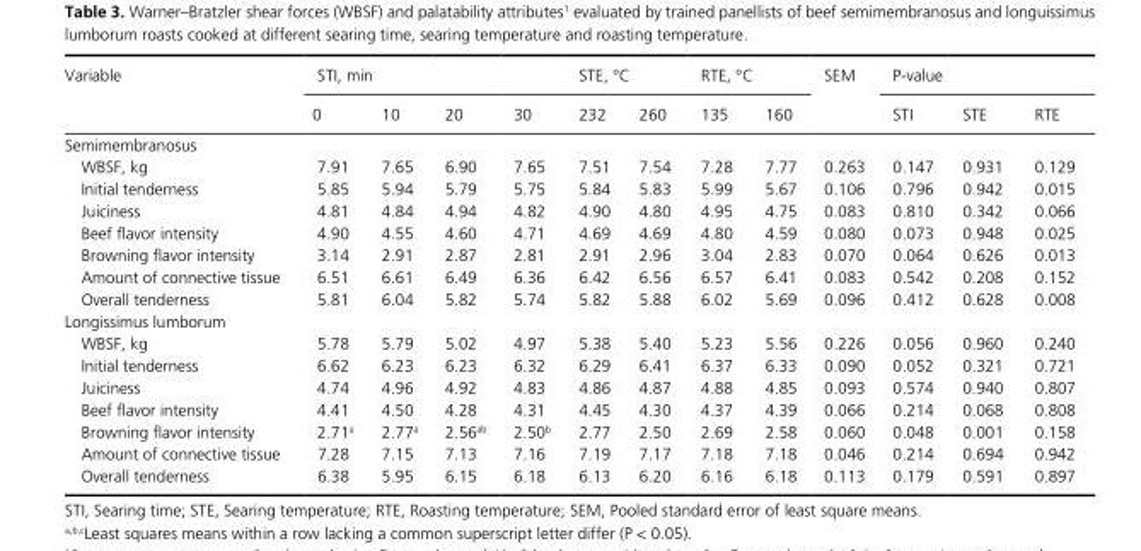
<table><thead><tr><td rowspan="2">Variable</td><td colspan="4">STI, min</td><td colspan="2">STE, °C</td><td colspan="2">RTE, °C</td><td rowspan="2">SEM</td><td colspan="3">P- value</td></tr><tr><td>0</td><td>10</td><td>20</td><td>30</td><td>232</td><td>260</td><td>135</td><td>160</td><td>STI</td><td>STE</td><td>RTE</td></tr></thead><tbody><tr><td colspan="13">Semimembranosus</td></tr><tr><td>WBSF, kg</td><td>7.91</td><td>7.65</td><td>6.90</td><td>7.65</td><td>7.51</td><td>7.54</td><td>7.28</td><td>7.77</td><td>0.263</td><td>0.147</td><td>0.931</td><td>0.129</td></tr><tr><td>Initial tenderness</td><td>5.85</td><td>5.94</td><td>5.79</td><td>5.75</td><td>5.84</td><td>5.83</td><td>5.99</td><td>5.67</td><td>0.106</td><td>0.796</td><td>0.942</td><td>0.015</td></tr><tr><td>Juiciness</td><td>4.81</td><td>4.84</td><td>4.94</td><td>4.82</td><td>4.90</td><td>4.80</td><td>4.95</td><td>4.75</td><td>0.083</td><td>0.810</td><td>0.342</td><td>0.066</td></tr><tr><td>Beef flavor intensity</td><td>4.90</td><td>4.55</td><td>4.60</td><td>4.71</td><td>4.69</td><td>4.69</td><td>4.80</td><td>4.59</td><td>0.080</td><td>0.073</td><td>0.948</td><td>0.025</td></tr><tr><td>Browning flavor intensity</td><td>3.14</td><td>2.91</td><td>2.87</td><td>2.81</td><td>2.91</td><td>2.96</td><td>3.04</td><td>2.83</td><td>0.070</td><td>0.064</td><td>0.626</td><td>0.013</td></tr><tr><td>Amount of connective tissue</td><td>6.51</td><td>6.61</td><td>6.49</td><td>6.36</td><td>6.42</td><td>6.56</td><td>6.57</td><td>6.41</td><td>0.083</td><td>0.542</td><td>0.208</td><td>0.152</td></tr><tr><td>Overall tenderness</td><td>5.81</td><td>6.04</td><td>5.82</td><td>5.74</td><td>5.82</td><td>5.88</td><td>6.02</td><td>5.69</td><td>0.096</td><td>0.412</td><td>0.628</td><td>0.008</td></tr><tr><td colspan="13">Longissimus lumborum</td></tr><tr><td>WBSF, kg</td><td>5.78</td><td>5.79</td><td>5.02</td><td>4.97</td><td>5.38</td><td>5.40</td><td>5.23</td><td>5.56</td><td>0.226</td><td>0.056</td><td>0.960</td><td>0.240</td></tr><tr><td>Initial tenderness</td><td>6.62</td><td>6.23</td><td>6.23</td><td>6.32</td><td>6.29</td><td>6.41</td><td>6.37</td><td>6.33</td><td>0.090</td><td>0.052</td><td>0.321</td><td>0.721</td></tr><tr><td>Juiciness</td><td>4.74</td><td>4.96</td><td>4.92</td><td>4.83</td><td>4.86</td><td>4.87</td><td>4.88</td><td>4.85</td><td>0.093</td><td>0.574</td><td>0.940</td><td>0.807</td></tr><tr><td>Beef flavor intensity</td><td>4.41</td><td>4.50</td><td>4.28</td><td>4.31</td><td>4.45</td><td>4.30</td><td>4.37</td><td>4.39</td><td>0.066</td><td>0.214</td><td>0.068</td><td>0.808</td></tr><tr><td>Browning flavor intensity</td><td>2.71<sup>a</sup></td><td>2.77<sup>a</sup></td><td>2.56<sup>ab</sup></td><td>2.50<sup>b</sup></td><td>2.77</td><td>2.50</td><td>2.69</td><td>2.58</td><td>0.060</td><td>0.048</td><td>0.001</td><td>0.158</td></tr><tr><td>Amount of connective tissue</td><td>7.28</td><td>7.15</td><td>7.13</td><td>7.16</td><td>7.19</td><td>7.17</td><td>7.18</td><td>7.18</td><td>0.046</td><td>0.214</td><td>0.694</td><td>0.942</td></tr><tr><td>Overall tenderness</td><td>6.38</td><td>5.95</td><td>6.15</td><td>6.18</td><td>6.13</td><td>6.20</td><td>6.16</td><td>6.18</td><td>0.113</td><td>0.179</td><td>0.591</td><td>0.897</td></tr></tbody></table>